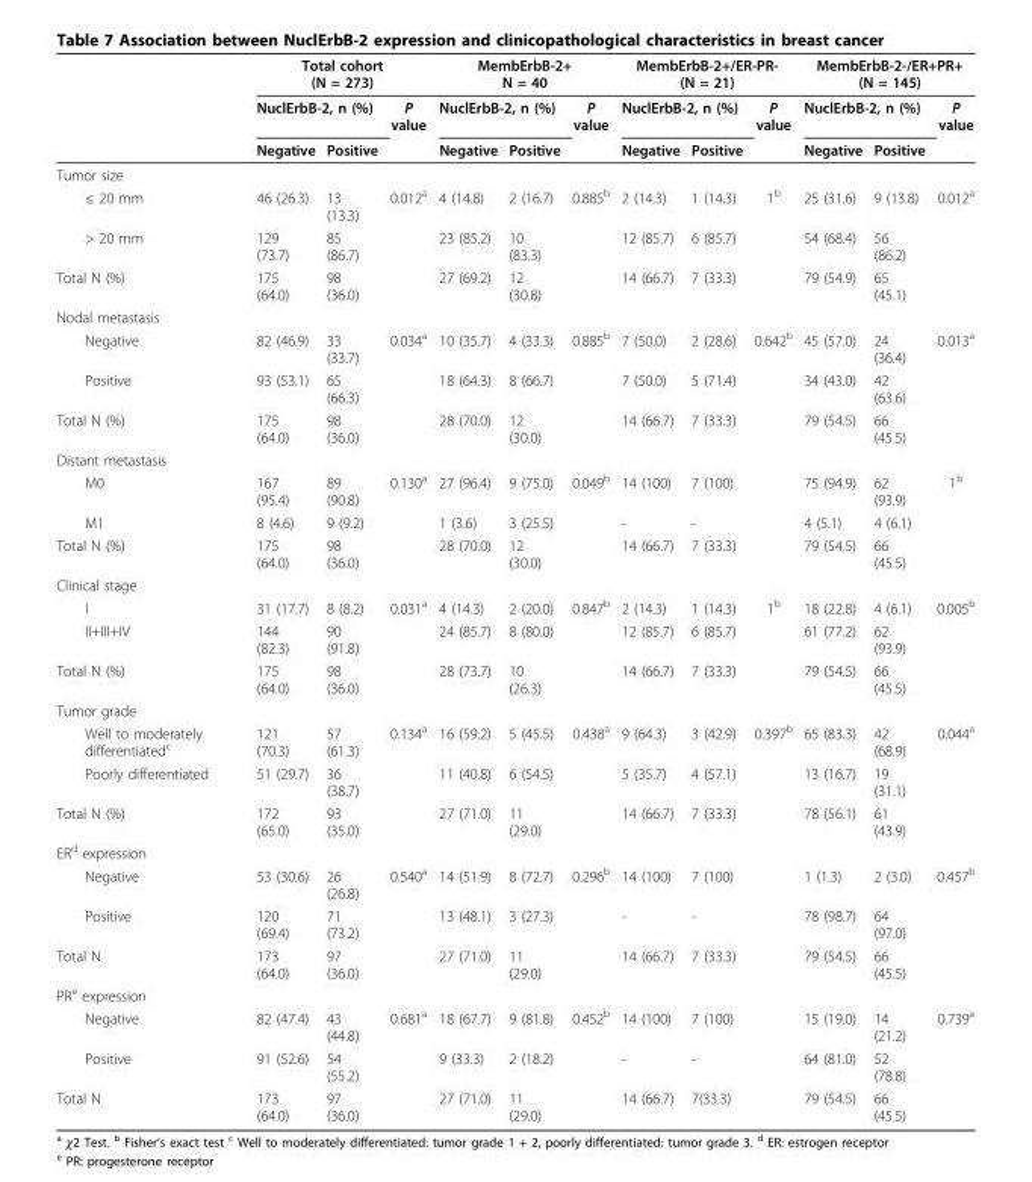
<table><thead><tr><td rowspan="3"></td><td colspan="3">Total cohort (N = 273)</td><td colspan="3">MembErbB-2+ N = 40</td><td colspan="3">MembErbB-2+/ER-PR- (N = 21)</td><td colspan="3">MembErbB-2-/ER+PR+ (N = 145)</td></tr><tr><td colspan="2">NuclErbB-2, n (%)</td><td rowspan="2">P value</td><td colspan="2">NuclErbB-2, n (%)</td><td rowspan="2">P value</td><td colspan="2">NuclErbB-2, n (%)</td><td rowspan="2">P value</td><td colspan="2">NuclErbB-2, n (%)</td><td rowspan="2">P value</td></tr><tr><td>Negative</td><td>Positive</td><td>Negative</td><td>Positive</td><td>Negative</td><td>Positive</td><td>Negative</td><td>Positive</td></tr></thead><tbody><tr><td colspan="13">Tumor size</td></tr><tr><td>≤ 20 mm</td><td>46 (26.3)</td><td>13 (13.3)</td><td>0.012<sup>a</sup></td><td>4 (14.8)</td><td>2 (16.7)</td><td>0.885<sup>b</sup></td><td>2 (14.3)</td><td>1 (14.3)</td><td>1<sup>b</sup></td><td>25 (31.6)</td><td>9 (13.8)</td><td>0.012<sup>a</sup></td></tr><tr><td>&gt; 20 mm</td><td>129 (73.7)</td><td>85 (86.7)</td><td></td><td>23 (85.2)</td><td>10 (83.3)</td><td></td><td>12 (85.7)</td><td>6 (85.7)</td><td></td><td>54 (68.4)</td><td>56 (86.2)</td><td></td></tr><tr><td>Total N (%)</td><td>175 (64.0)</td><td>98 (36.0)</td><td></td><td>27 (69.2)</td><td>12 (30.8)</td><td></td><td>14 (66.7)</td><td>7 (33.3)</td><td></td><td>79 (54.9)</td><td>65 (45.1)</td><td></td></tr><tr><td colspan="13">Nodal metastasis</td></tr><tr><td>Negative</td><td>82 (46.9)</td><td>33 (33.7)</td><td>0.034<sup>a</sup></td><td>10 (35.7)</td><td>4 (33.3)</td><td>0.885<sup>b</sup></td><td>7 (50.0)</td><td>2 (28.6)</td><td>0.642<sup>b</sup></td><td>45 (57.0)</td><td>24 (36.4)</td><td>0.013<sup>a</sup></td></tr><tr><td>Positive</td><td>93 (53.1)</td><td>65 (66.3)</td><td></td><td>18 (64.3)</td><td>8 (66.7)</td><td></td><td>7 (50.0)</td><td>5 (71.4)</td><td></td><td>34 (43.0)</td><td>42 (63.6)</td><td></td></tr><tr><td>Total N (%)</td><td>175 (64.0)</td><td>98 (36.0)</td><td></td><td>28 (70.0)</td><td>12 (30.0)</td><td></td><td>14 (66.7)</td><td>7 (33.3)</td><td></td><td>79 (54.5)</td><td>66 (45.5)</td><td></td></tr><tr><td colspan="13">Distant metastasis</td></tr><tr><td>M0</td><td>167 (95.4)</td><td>89 (90.8)</td><td>0.130<sup>a</sup></td><td>27 (96.4)</td><td>9 (75.0)</td><td>0.049<sup>b</sup></td><td>14 (100)</td><td>7 (100)</td><td></td><td>75 (94.9)</td><td>62 (93.9)</td><td>1<sup>b</sup></td></tr><tr><td>M1</td><td>8 (4.6)</td><td>9 (9.2)</td><td></td><td>1 (3.6)</td><td>3 (25.5)</td><td></td><td>-</td><td>-</td><td></td><td>4 (5.1)</td><td>4 (6.1)</td><td></td></tr><tr><td>Total N (%)</td><td>175 (64.0)</td><td>98 (36.0)</td><td></td><td>28 (70.0)</td><td>12 (30.0)</td><td></td><td>14 (66.7)</td><td>7 (33.3)</td><td></td><td>79 (54.5)</td><td>66 (45.5)</td><td></td></tr><tr><td colspan="13">Clinical stage</td></tr><tr><td>I</td><td>31 (17.7)</td><td>8 (8.2)</td><td>0.031<sup>a</sup></td><td>4 (14.3)</td><td>2 (20.0)</td><td>0.847<sup>b</sup></td><td>2 (14.3)</td><td>1 (14.3)</td><td>1<sup>b</sup></td><td>18 (22.8)</td><td>4 (6.1)</td><td>0.005<sup>b</sup></td></tr><tr><td>II+III+IV</td><td>144 (82.3)</td><td>90 (91.8)</td><td></td><td>24 (85.7)</td><td>8 (80.0)</td><td></td><td>12 (85.7)</td><td>6 (85.7)</td><td></td><td>61 (77.2)</td><td>62 (93.9)</td><td></td></tr><tr><td>Total N (%)</td><td>175 (64.0)</td><td>98 (36.0)</td><td></td><td>28 (73.7)</td><td>10 (26.3)</td><td></td><td>14 (66.7)</td><td>7 (33.3)</td><td></td><td>79 (54.5)</td><td>66 (45.5)</td><td></td></tr><tr><td colspan="13">Tumor grade</td></tr><tr><td>Well to moderately differentiated<sup>c</sup></td><td>121 (70.3)</td><td>57 (61.3)</td><td>0.134<sup>a</sup></td><td>16 (59.2)</td><td>5 (45.5)</td><td>0.438<sup>a</sup></td><td>9 (64.3)</td><td>3 (42.9)</td><td>0.397<sup>b</sup></td><td>65 (83.3)</td><td>42 (68.9)</td><td>0.044<sup>a</sup></td></tr><tr><td>Poorly differentiated</td><td>51 (29.7)</td><td>36 (38.7)</td><td></td><td>11 (40.8)</td><td>6 (54.5)</td><td></td><td>5 (35.7)</td><td>4 (57.1)</td><td></td><td>13 (16.7)</td><td>19 (31.1)</td><td></td></tr><tr><td>Total N (%)</td><td>172 (65.0)</td><td>93 (35.0)</td><td></td><td>27 (71.0)</td><td>11 (29.0)</td><td></td><td>14 (66.7)</td><td>7 (33.3)</td><td></td><td>78 (56.1)</td><td>61 (43.9)</td><td></td></tr><tr><td colspan="13">ER<sup>d</sup> expression</td></tr><tr><td>Negative</td><td>53 (30.6)</td><td>26 (26.8)</td><td>0.540<sup>a</sup></td><td>14 (51.9)</td><td>8 (72.7)</td><td>0.296<sup>b</sup></td><td>14 (100)</td><td>7 (100)</td><td></td><td>1 (1.3)</td><td>2 (3.0)</td><td>0.457<sup>b</sup></td></tr><tr><td>Positive</td><td>120 (69.4)</td><td>71 (73.2)</td><td></td><td>13 (48.1)</td><td>3 (27.3)</td><td></td><td>-</td><td>-</td><td></td><td>78 (98.7)</td><td>64 (97.0)</td><td></td></tr><tr><td>Total N</td><td>173 (64.0)</td><td>97 (36.0)</td><td></td><td>27 (71.0)</td><td>11 (29.0)</td><td></td><td>14 (66.7)</td><td>7 (33.3)</td><td></td><td>79 (54.5)</td><td>66 (45.5)</td><td></td></tr><tr><td colspan="13">PR<sup>e</sup> expression</td></tr><tr><td>Negative</td><td>82 (47.4)</td><td>43 (44.8)</td><td>0.681<sup>a</sup></td><td>18 (67.7)</td><td>9 (81.8)</td><td>0.452<sup>b</sup></td><td>14 (100)</td><td>7 (100)</td><td></td><td>15 (19.0)</td><td>14 (21.2)</td><td>0.739<sup>a</sup></td></tr><tr><td>Positive</td><td>91 (52.6)</td><td>54 (55.2)</td><td></td><td>9 (33.3)</td><td>2 (18.2)</td><td></td><td>-</td><td>-</td><td></td><td>64 (81.0)</td><td>52 (78.8)</td><td></td></tr><tr><td>Total N</td><td>173 (64.0)</td><td>97 (36.0)</td><td></td><td>27 (71.0)</td><td>11 (29.0)</td><td></td><td>14 (66.7)</td><td>7(33.3)</td><td></td><td>79 (54.5)</td><td>66 (45.5)</td><td></td></tr></tbody></table>